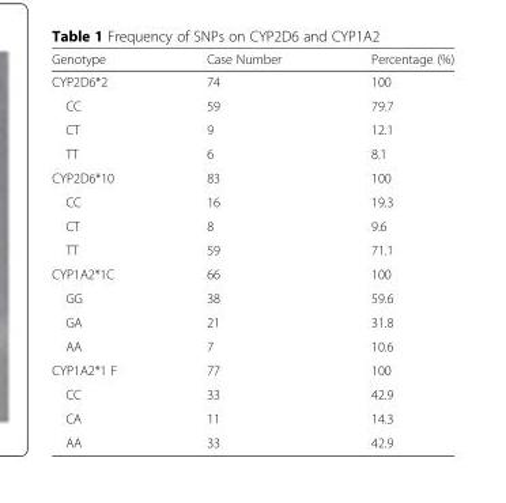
<table><thead><tr><td>Genotype</td><td>Case Number</td><td>Percentage (%)</td></tr></thead><tbody><tr><td>CYP2D6*2</td><td>74</td><td>100</td></tr><tr><td>CC</td><td>59</td><td>79.7</td></tr><tr><td>CT</td><td>9</td><td>12.1</td></tr><tr><td>TT</td><td>6</td><td>8.1</td></tr><tr><td>CYP2D6*10</td><td>83</td><td>100</td></tr><tr><td>CC</td><td>16</td><td>19.3</td></tr><tr><td>CT</td><td>8</td><td>9.6</td></tr><tr><td>TT</td><td>59</td><td>71.1</td></tr><tr><td>CYP1A2*1C</td><td>66</td><td>100</td></tr><tr><td>GG</td><td>38</td><td>59.6</td></tr><tr><td>GA</td><td>21</td><td>31.8</td></tr><tr><td>AA</td><td>7</td><td>10.6</td></tr><tr><td>CYP1A2*1 F</td><td>77</td><td>100</td></tr><tr><td>CC</td><td>33</td><td>42.9</td></tr><tr><td>CA</td><td>11</td><td>14.3</td></tr><tr><td>AA</td><td>33</td><td>42.9</td></tr></tbody></table>